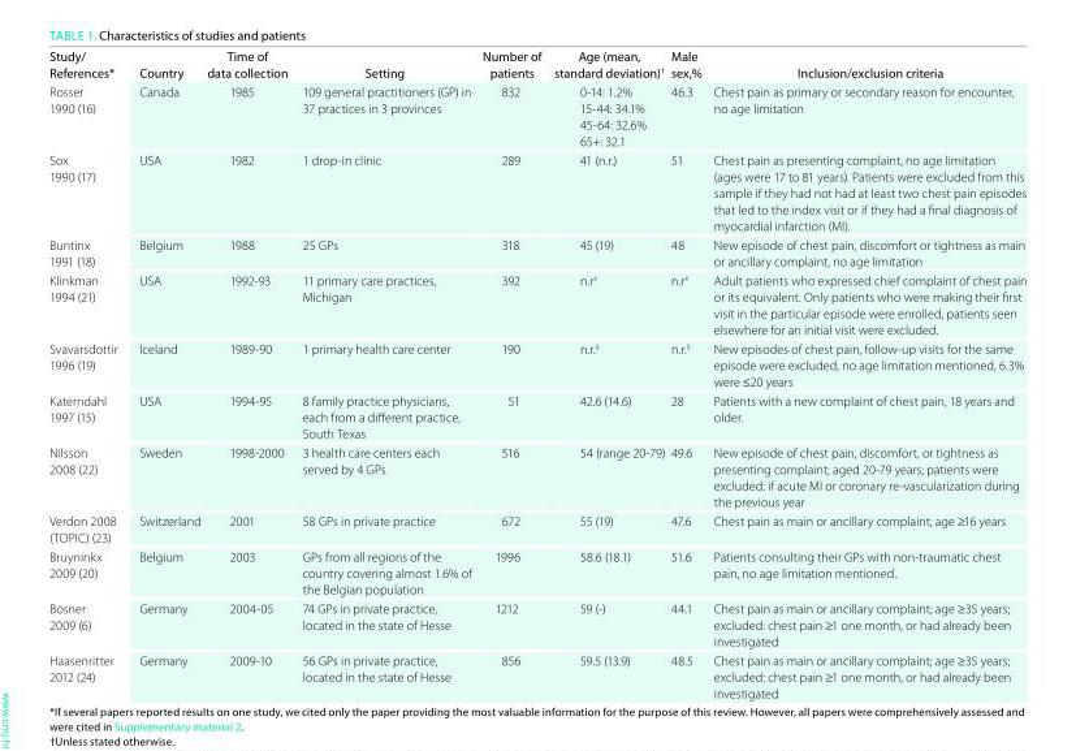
<table><thead><tr><td>Study/ References*</td><td>Country</td><td>Time of data collection</td><td>Setting</td><td>Number of patients</td><td>Age (mean, standard deviation)<sup>†</sup></td><td>Male sex,%</td><td>inclusion/exclusion criteria</td></tr></thead><tbody><tr><td>Rosser 1990 (16)</td><td>Canada</td><td>1985</td><td>109 general practitioners (GP) in 37 practices in 3 provinces</td><td>832</td><td>0-14: 1.2% 15-44: 34.1% 45-64: 32.6% 65+: 32.1</td><td>46.3</td><td>Chest pain as primary or secondary reason for encounter, no age limitation</td></tr><tr><td>Sox 1990 (17)</td><td>USA</td><td>1982</td><td>1 drop-in clinic</td><td>289</td><td>41 (n.r.)</td><td>51</td><td>Chest pain as presenting complaint, no age limitation (ages were 17 to 81 years). Patients were excluded from this sample if they had not had at least two chest pain episodes that led to the index visit or if they had a final diagnosis of myocardial infarction (MI).</td></tr><tr><td>Buntinx 1991 (18)</td><td>Belgium</td><td>1988</td><td>25 GPs</td><td>318</td><td>45 (19)</td><td>48</td><td>New episode of chest pain, discomfort or tightness as main or ancillary complaint, no age limitation</td></tr><tr><td>Klinkman 1994 (21)</td><td>USA</td><td>1992-93</td><td>11 primary care practices, Michigan</td><td>392</td><td>n.r<sup>‡</sup></td><td>n.r<sup>‡</sup></td><td>Adult patients who expressed chief complaint of chest pain or its equivalent. Only patients who were making their first visit in the particular episode were enrolled, patients seen elsewhere for an initial visit were excluded.</td></tr><tr><td>Svavarsdottir 1996 (19)</td><td>Iceland</td><td>1989-90</td><td>1 primary health care center</td><td>190</td><td>n.r.<sup>§</sup></td><td>n.r.<sup>§</sup></td><td>New episodes of chest pain, follow-up visits for the same episode were excluded, no age limitation mentioned, 6.3% were ≤20 years</td></tr><tr><td>Katerndahl 1997 (15)</td><td>USA</td><td>1994-95</td><td>8 family practice physicians, each from a different practice, South Texas</td><td>51</td><td>42.6 (14.6)</td><td>28</td><td>Patients with a new complaint of chest pain, 18 years and older.</td></tr><tr><td>Nilsson 2008 (22)</td><td>Sweden</td><td>1998-2000</td><td>3 health care centers each served by 4 GPs</td><td>516</td><td>54 (range 20-79)</td><td>49.6</td><td>New episode of chest pain, discomfort, or tightness as presenting complaint; aged 20-79 years; patients were excluded: if acute MI or coronary re-vascularization during the previous year</td></tr><tr><td>Verdon 2008 (TOPIC) (23)</td><td>Switzerland</td><td>2001</td><td>58 GPs in private practice</td><td>672</td><td>55 (19)</td><td>47.6</td><td>Chest pain as main or ancillary complaint; age ≥16 years</td></tr><tr><td>Bruyninkx 2009 (20)</td><td>Belgium</td><td>2003</td><td>GPs from all regions of the country covering almost 1.6% of the Belgian population</td><td>1996</td><td>58.6 (18.1)</td><td>51.6</td><td>Patients consulting their GPs with non-traumatic chest pain, no age limitation mentioned.</td></tr><tr><td>Bösner 2009 (6)</td><td>Germany</td><td>2004-05</td><td>74 GPs in private practice, located in the state of Hesse</td><td>1212</td><td>59 (-)</td><td>44.1</td><td>Chest pain as main or ancillary complaint; age ≥35 years; excluded: chest pain ≥1 one month, or had already been investigated</td></tr><tr><td>Haasenritter 2012 (24)</td><td>Germany</td><td>2009-10</td><td>56 GPs in private practice, located in the state of Hesse</td><td>856</td><td>59.5 (13.9)</td><td>48.5</td><td>Chest pain as main or ancillary complaint; age ≥35 years; excluded: chest pain ≥1 one month, or had already been investigated</td></tr></tbody></table>